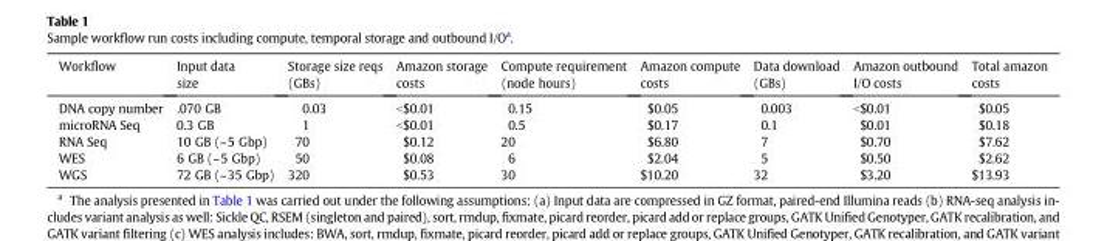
<table><thead><tr><td>Workflow</td><td>Input data size</td><td>Storage size reqs (GBs)</td><td>Amazon storage costs</td><td>Compute requirement (node hours)</td><td>Amazon compute costs</td><td>Data download (GBs)</td><td>Amazon outbound I/O costs</td><td>Total amazon costs</td></tr></thead><tbody><tr><td>DNA copy number</td><td>.070 GB</td><td>0.03</td><td>&lt;$0.01</td><td>0.15</td><td>$0.05</td><td>0.003</td><td>&lt;$0.01</td><td>$0.05</td></tr><tr><td>microRNA Seq</td><td>0.3 GB</td><td>1</td><td>&lt;$0.01</td><td>0.5</td><td>$0.17</td><td>0.1</td><td>$0.01</td><td>$0.18</td></tr><tr><td>RNA Seq</td><td>10 GB (~5 Gbp)</td><td>70</td><td>$0.12</td><td>20</td><td>$6.80</td><td>7</td><td>$0.70</td><td>$7.62</td></tr><tr><td>WES</td><td>6 GB (~5 Gbp)</td><td>50</td><td>$0.08</td><td>6</td><td>$2.04</td><td>5</td><td>$0.50</td><td>$2.62</td></tr><tr><td>WGS</td><td>72 GB (~35 Gbp)</td><td>320</td><td>$0.53</td><td>30</td><td>$10.20</td><td>32</td><td>$3.20</td><td>$13.93</td></tr></tbody></table>